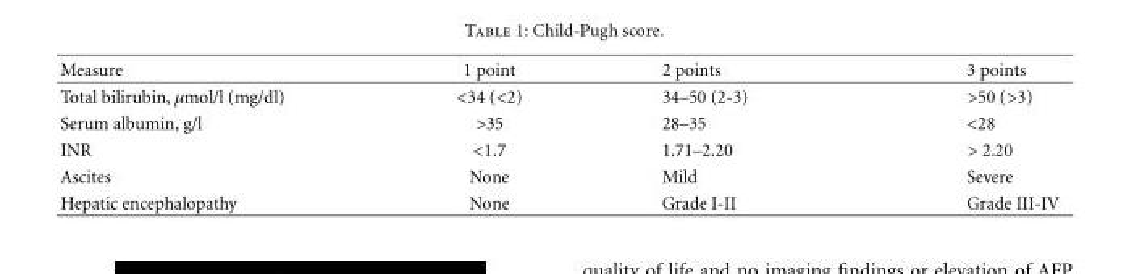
<table><thead><tr><td>Measure</td><td>1 point</td><td>2 points</td><td>3 points</td></tr></thead><tbody><tr><td>Total bilirubin, µmol/l (mg/dl)</td><td>&lt;34 (&lt;2)</td><td>34–50 (2-3)</td><td>&gt;50 (&gt;3)</td></tr><tr><td>Serum albumin, g/l</td><td>&gt;35</td><td>28–35</td><td>&lt;28</td></tr><tr><td>INR</td><td>&lt;1.7</td><td>1.71–2.20</td><td>&gt; 2.20</td></tr><tr><td>Ascites</td><td>None</td><td>Mild</td><td>Severe</td></tr><tr><td>Hepatic encephalopathy</td><td>None</td><td>Grade I-II</td><td>Grade III-IV</td></tr></tbody></table>